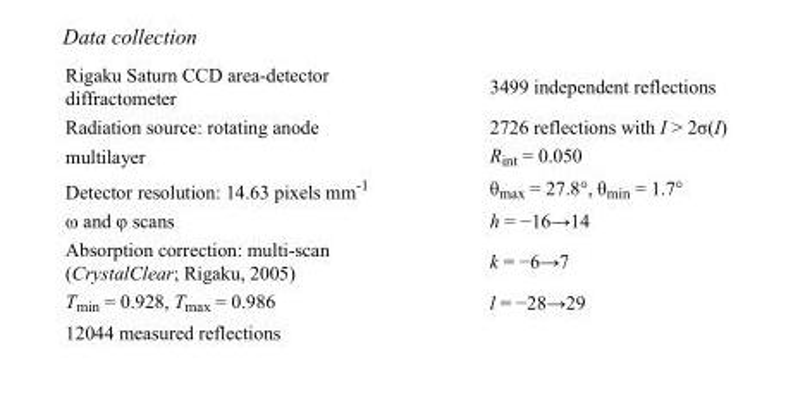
<table><tbody><tr><td>Rigaku Saturn CCD area-detector diffractometer</td><td>3499 independent reflections</td></tr><tr><td>Radiation source: rotating anode</td><td>2726 reflections with I &gt; 2σ(I)</td></tr><tr><td>multilayer</td><td>R<sub>int</sub> = 0.050</td></tr><tr><td>Detector resolution: 14.63 pixels mm<sup>-1</sup></td><td>θ<sub>max</sub> = 27.8°, θ<sub>min</sub> = 1.7°</td></tr><tr><td>ω and φ scans</td><td>h = −16→14</td></tr><tr><td>Absorption correction: multi-scan (CrystalClear; Rigaku, 2005)</td><td>k = −6→7</td></tr><tr><td>T<sub>min</sub> = 0.928, T<sub>max</sub> = 0.986</td><td>l = −28→29</td></tr><tr><td>12044 measured reflections</td><td></td></tr></tbody></table>